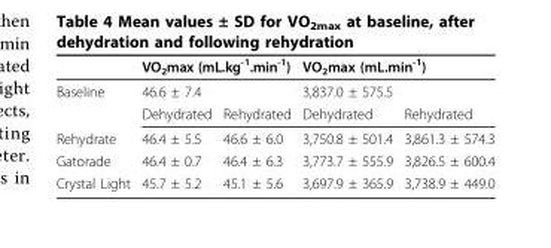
<table><thead><tr><td rowspan="2">Baseline</td><td colspan="2">VO<sub>2</sub>max (mL.kg<sup>-1</sup>.min<sup>-1</sup>)</td><td colspan="2">VO<sub>2</sub>max (mL.min<sup>-1</sup>)</td></tr><tr><td>46.6 ± 7.4</td><td></td><td>3,837.0 ± 575.5</td><td></td></tr></thead><tbody><tr><td></td><td>Dehydrated</td><td>Rehydrated</td><td>Dehydrated</td><td>Rehydrated</td></tr><tr><td>Rehydrate</td><td>46.4 ± 5.5</td><td>46.6 ± 6.0</td><td>3,750.8 ± 501.4</td><td>3,861.3 ± 574.3</td></tr><tr><td>Gatorade</td><td>46.4 ± 0.7</td><td>46.4 ± 6.3</td><td>3,773.7 ± 555.9</td><td>3,826.5 ± 600.4</td></tr><tr><td>Crystal Light</td><td>45.7 ± 5.2</td><td>45.1 ± 5.6</td><td>3,697.9 ± 365.9</td><td>3,738.9 ± 449.0</td></tr></tbody></table>